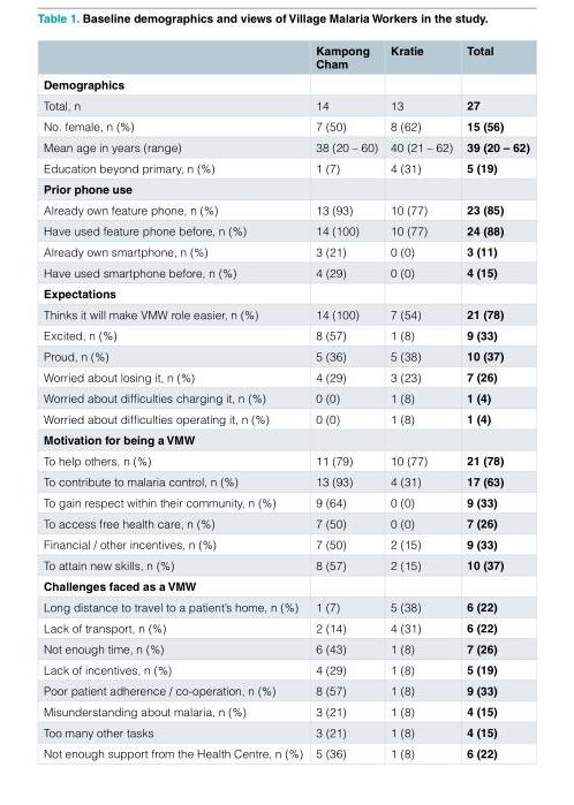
<table><thead><tr><td></td><td>Kampong Cham</td><td>Kratie</td><td>Total</td></tr></thead><tbody><tr><td colspan="4">Demographics</td></tr><tr><td>Total, n</td><td>14</td><td>13</td><td>27</td></tr><tr><td>No. female, n (%)</td><td>7 (50)</td><td>8 (62)</td><td>15 (56)</td></tr><tr><td>Mean age in years (range)</td><td>38 (20 – 60)</td><td>40 (21 – 62)</td><td>39 (20 – 62)</td></tr><tr><td>Education beyond primary, n (%)</td><td>1 (7)</td><td>4 (31)</td><td>5 (19)</td></tr><tr><td colspan="4">Prior phone use</td></tr><tr><td>Already own feature phone, n (%)</td><td>13 (93)</td><td>10 (77)</td><td>23 (85)</td></tr><tr><td>Have used feature phone before, n (%)</td><td>14 (100)</td><td>10 (77)</td><td>24 (88)</td></tr><tr><td>Already own smartphone, n (%)</td><td>3 (21)</td><td>0 (0)</td><td>3 (11)</td></tr><tr><td>Have used smartphone before, n (%)</td><td>4 (29)</td><td>0 (0)</td><td>4 (15)</td></tr><tr><td colspan="4">Expectations</td></tr><tr><td>Thinks it will make VMW role easier, n (%)</td><td>14 (100)</td><td>7 (54)</td><td>21 (78)</td></tr><tr><td>Excited, n (%)</td><td>8 (57)</td><td>1 (8)</td><td>9 (33)</td></tr><tr><td>Proud, n (%)</td><td>5 (36)</td><td>5 (38)</td><td>10 (37)</td></tr><tr><td>Worried about losing it, n (%)</td><td>4 (29)</td><td>3 (23)</td><td>7 (26)</td></tr><tr><td>Worried about difficulties charging it, n (%)</td><td>0 (0)</td><td>1 (8)</td><td>1 (4)</td></tr><tr><td>Worried about difficulties operating it, n (%)</td><td>0 (0)</td><td>1 (8)</td><td>1 (4)</td></tr><tr><td colspan="4">Motivation for being a VMW</td></tr><tr><td>To help others, n (%)</td><td>11 (79)</td><td>10 (77)</td><td>21 (78)</td></tr><tr><td>To contribute to malaria control, n (%)</td><td>13 (93)</td><td>4 (31)</td><td>17 (63)</td></tr><tr><td>To gain respect within their community, n (%)</td><td>9 (64)</td><td>0 (0)</td><td>9 (33)</td></tr><tr><td>To access free health care, n (%)</td><td>7 (50)</td><td>0 (0)</td><td>7 (26)</td></tr><tr><td>Financial / other incentives, n (%)</td><td>7 (50)</td><td>2 (15)</td><td>9 (33)</td></tr><tr><td>To attain new skills, n (%)</td><td>8 (57)</td><td>2 (15)</td><td>10 (37)</td></tr><tr><td colspan="4">Challenges faced as a VMW</td></tr><tr><td>Long distance to travel to a patient’s home, n (%)</td><td>1 (7)</td><td>5 (38)</td><td>6 (22)</td></tr><tr><td>Lack of transport, n (%)</td><td>2 (14)</td><td>4 (31)</td><td>6 (22)</td></tr><tr><td>Not enough time, n (%)</td><td>6 (43)</td><td>1 (8)</td><td>7 (26)</td></tr><tr><td>Lack of incentives, n (%)</td><td>4 (29)</td><td>1 (8)</td><td>5 (19)</td></tr><tr><td>Poor patient adherence / co-operation, n (%)</td><td>8 (57)</td><td>1 (8)</td><td>9 (33)</td></tr><tr><td>Misunderstanding about malaria, n (%)</td><td>3 (21)</td><td>1 (8)</td><td>4 (15)</td></tr><tr><td>Too many other tasks</td><td>3 (21)</td><td>1 (8)</td><td>4 (15)</td></tr><tr><td>Not enough support from the Health Centre, n (%)</td><td>5 (36)</td><td>1 (8)</td><td>6 (22)</td></tr></tbody></table>